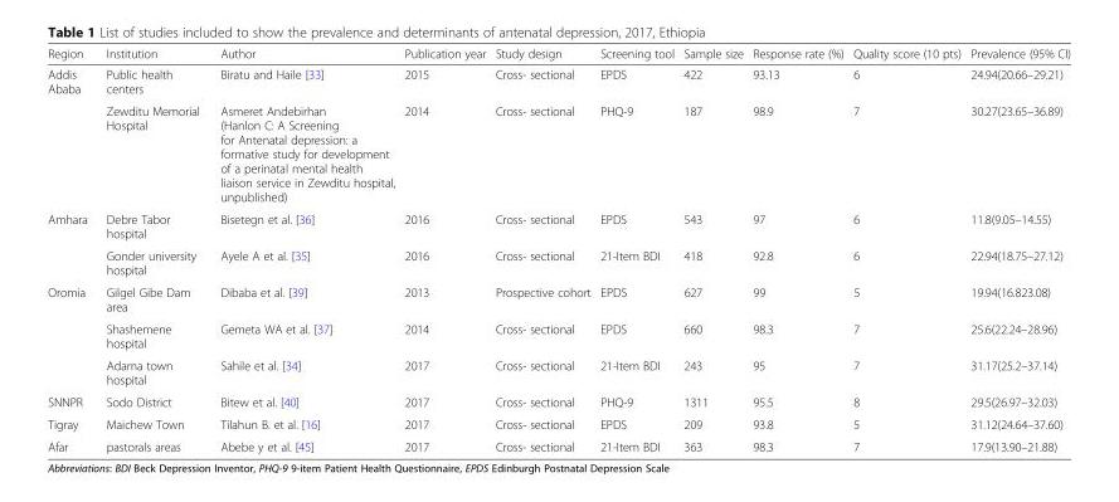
<table><thead><tr><td>Region</td><td>Institution</td><td>Author</td><td>Publication year</td><td>Study design</td><td>Screening tool</td><td>Sample size</td><td>Response rate (%)</td><td>Quality score (10 pts)</td><td>Prevalence (95% CI)</td></tr></thead><tbody><tr><td rowspan="2">Addis Ababa</td><td>Public health centers</td><td>Biratu and Haile [33]</td><td>2015</td><td>Cross- sectional</td><td>EPDS</td><td>422</td><td>93.13</td><td>6</td><td>24.94(20.66–29.21)</td></tr><tr><td>Zewditu Memorial Hospital</td><td>Asmeret Andebirhan (Hanlon C: A Screening for Antenatal depression: a formative study for development of a perinatal mental health liaison service in Zewditu hospital, unpublished)</td><td>2014</td><td>Cross- sectional</td><td>PHQ-9</td><td>187</td><td>98.9</td><td>7</td><td>30.27(23.65–36.89)</td></tr><tr><td rowspan="2">Amhara</td><td>Debre Tabor hospital</td><td>Bisetegn et al. [36]</td><td>2016</td><td>Cross- sectional</td><td>EPDS</td><td>543</td><td>97</td><td>6</td><td>11.8(9.05–14.55)</td></tr><tr><td>Gonder university hospital</td><td>Ayele A et al. [35]</td><td>2016</td><td>Cross- sectional</td><td>21-Item BDI</td><td>418</td><td>92.8</td><td>6</td><td>22.94(18.75–27.12)</td></tr><tr><td rowspan="3">Oromia</td><td>Gilgel Gibe Dam area</td><td>Dibaba et al. [39]</td><td>2013</td><td>Prospective cohort</td><td>EPDS</td><td>627</td><td>99</td><td>5</td><td>19.94(16.823.08)</td></tr><tr><td>Shashemene hospital</td><td>Gemeta WA et al. [37]</td><td>2014</td><td>Cross- sectional</td><td>EPDS</td><td>660</td><td>98.3</td><td>7</td><td>25.6(22.24–28.96)</td></tr><tr><td>Adama town hospital</td><td>Sahile et al. [34]</td><td>2017</td><td>Cross- sectional</td><td>21-Item BDI</td><td>243</td><td>95</td><td>7</td><td>31.17(25.2–37.14)</td></tr><tr><td>SNNPR</td><td>Sodo District</td><td>Bitew et al. [40]</td><td>2017</td><td>Cross- sectional</td><td>PHQ-9</td><td>1311</td><td>95.5</td><td>8</td><td>29.5(26.97–32.03)</td></tr><tr><td>Tigray</td><td>Maichew Town</td><td>Tilahun B. et al. [16]</td><td>2017</td><td>Cross- sectional</td><td>EPDS</td><td>209</td><td>93.8</td><td>5</td><td>31.12(24.64–37.60)</td></tr><tr><td>Afar</td><td>pastorals areas</td><td>Abebe y et al. [45]</td><td>2017</td><td>Cross- sectional</td><td>21-Item BDI</td><td>363</td><td>98.3</td><td>7</td><td>17.9(13.90–21.88)</td></tr></tbody></table>